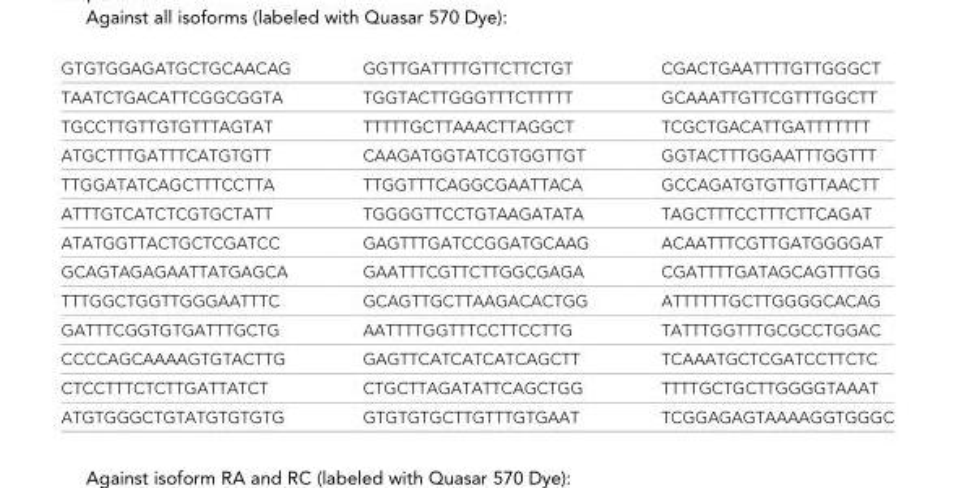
<table><tbody><tr><td>GTGTGGAGATGCTGCAACAG</td><td>GGTTGATTTTGTTCTTCTGT</td><td>CGACTGAATTTTGTTGGGCT</td></tr><tr><td>TAATCTGACATTCGGCGGTA</td><td>TGGTACTTGGGTTTCTTTTT</td><td>GCAAATTGTTCGTTTGGCTT</td></tr><tr><td>TGCCTTGTTGTGTTTAGTAT</td><td>TTTTTGCTTAAACTTAGGCT</td><td>TCGCTGACATTGATTTTTTT</td></tr><tr><td>ATGCTTTGATTTCATGTGTT</td><td>CAAGATGGTATCGTGGTTGT</td><td>GGTACTTTGGAATTTGGTTT</td></tr><tr><td>TTGGATATCAGCTTTCCTTA</td><td>TTGGTTTCAGGCGAATTACA</td><td>GCCAGATGTGTTGTTAACTT</td></tr><tr><td>ATTTGTCATCTCGTGCTATT</td><td>TGGGGTTCCTGTAAGATATA</td><td>TAGCTTTCCTTTCTTCAGAT</td></tr><tr><td>ATATGGTTACTGCTCGATCC</td><td>GAGTTTGATCCGGATGCAAG</td><td>ACAATTTCGTTGATGGGGAT</td></tr><tr><td>GCAGTAGAGAATTATGAGCA</td><td>GAATTTCGTTCTTGGCGAGA</td><td>CGATTTTGATAGCAGTTTGG</td></tr><tr><td>TTTGGCTGGTTGGGAATTTC</td><td>GCAGTTGCTTAAGACACTGG</td><td>ATTTTTTGCTTGGGGCACAG</td></tr><tr><td>GATTTCGGTGTGATTTGCTG</td><td>AATTTTGGTTTCCTTCCTTG</td><td>TATTTGGTTTGCGCCTGGAC</td></tr><tr><td>CCCCAGCAAAAGTGTACTTG</td><td>GAGTTCATCATCATCAGCTT</td><td>TCAAATGCTCGATCCTTCTC</td></tr><tr><td>CTCCTTTCTCTTGATTATCT</td><td>CTGCTTAGATATTCAGCTGG</td><td>TTTTGCTGCTTGGGGTAAAT</td></tr><tr><td>ATGTGGGCTGTATGTGTGTG</td><td>GTGTGTGCTTGTTTGTGAAT</td><td>TCGGAGAGTAAAAGGTGGGC</td></tr></tbody></table>